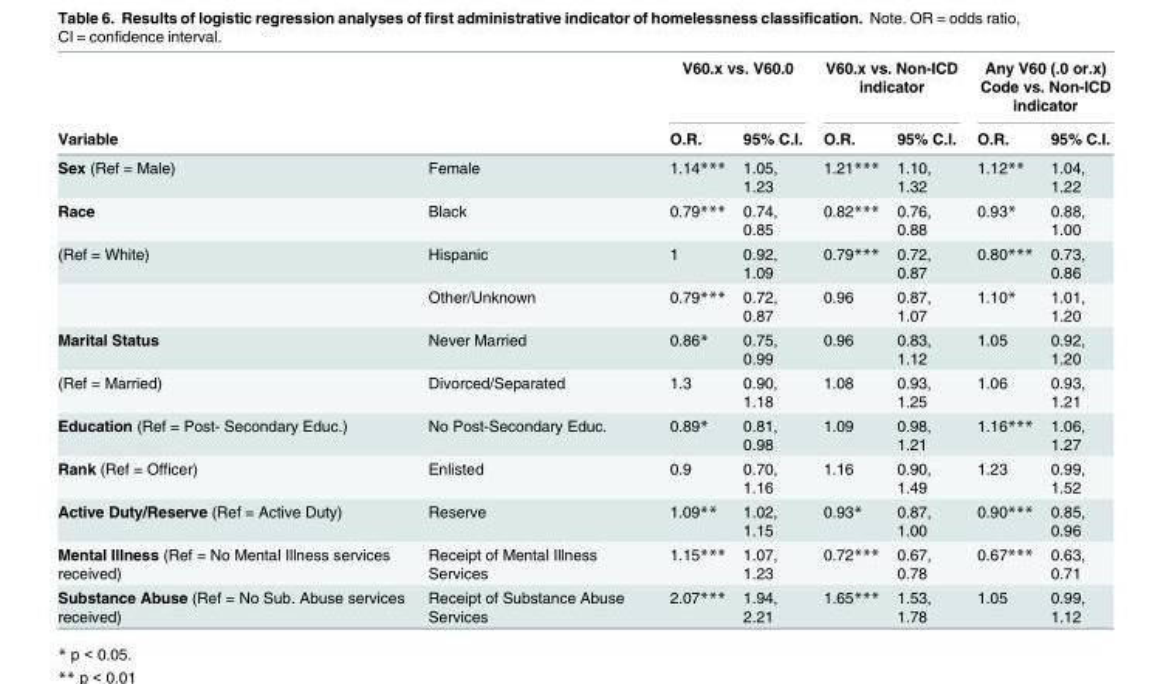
<table><thead><tr><td rowspan="2">Variable</td><td rowspan="2"></td><td colspan="2">V60.x vs. V60.0</td><td colspan="2">V60.x vs. Non-ICD indicator</td><td colspan="2">Any V60 (.0 or.x) Code vs. Non-ICD indicator</td></tr><tr><td>O.R.</td><td>95% C.I.</td><td>O.R.</td><td>95% C.I.</td><td>O.R.</td><td>95% C.I.</td></tr></thead><tbody><tr><td>Sex (Ref = Male)</td><td>Female</td><td>1.14***</td><td>1.05, 1.23</td><td>1.21***</td><td>1.10, 1.32</td><td>1.12**</td><td>1.04, 1.22</td></tr><tr><td>Race</td><td>Black</td><td>0.79***</td><td>0.74, 0.85</td><td>0.82***</td><td>0.76, 0.88</td><td>0.93*</td><td>0.88, 1.00</td></tr><tr><td rowspan="2">(Ref = White)</td><td>Hispanic</td><td>1</td><td>0.92, 1.09</td><td>0.79***</td><td>0.72, 0.87</td><td>0.80***</td><td>0.73, 0.86</td></tr><tr><td>Other/Unknown</td><td>0.79***</td><td>0.72, 0.87</td><td>0.96</td><td>0.87, 1.07</td><td>1.10*</td><td>1.01, 1.20</td></tr><tr><td>Marital Status</td><td>Never Married</td><td>0.86*</td><td>0.75, 0.99</td><td>0.96</td><td>0.83, 1.12</td><td>1.05</td><td>0.92, 1.20</td></tr><tr><td>(Ref = Married)</td><td>Divorced/Separated</td><td>1.3</td><td>0.90, 1.18</td><td>1.08</td><td>0.93, 1.25</td><td>1.06</td><td>0.93, 1.21</td></tr><tr><td>Education (Ref = Post- Secondary Educ.)</td><td>No Post-Secondary Educ.</td><td>0.89*</td><td>0.81, 0.98</td><td>1.09</td><td>0.98, 1.21</td><td>1.16***</td><td>1.06, 1.27</td></tr><tr><td>Rank (Ref = Officer)</td><td>Enlisted</td><td>0.9</td><td>0.70, 1.16</td><td>1.16</td><td>0.90, 1.49</td><td>1.23</td><td>0.99, 1.52</td></tr><tr><td>Active Duty/Reserve (Ref = Active Duty)</td><td>Reserve</td><td>1.09**</td><td>1.02, 1.15</td><td>0.93*</td><td>0.87, 1.00</td><td>0.90***</td><td>0.85, 0.96</td></tr><tr><td>Mental Illness (Ref = No Mental Illness services received)</td><td>Receipt of Mental Illness Services</td><td>1.15***</td><td>1.07, 1.23</td><td>0.72***</td><td>0.67, 0.78</td><td>0.67***</td><td>0.63, 0.71</td></tr><tr><td>Substance Abuse (Ref = No Sub. Abuse services received)</td><td>Receipt of Substance Abuse Services</td><td>2.07***</td><td>1.94, 2.21</td><td>1.65***</td><td>1.53, 1.78</td><td>1.05</td><td>0.99, 1.12</td></tr></tbody></table>